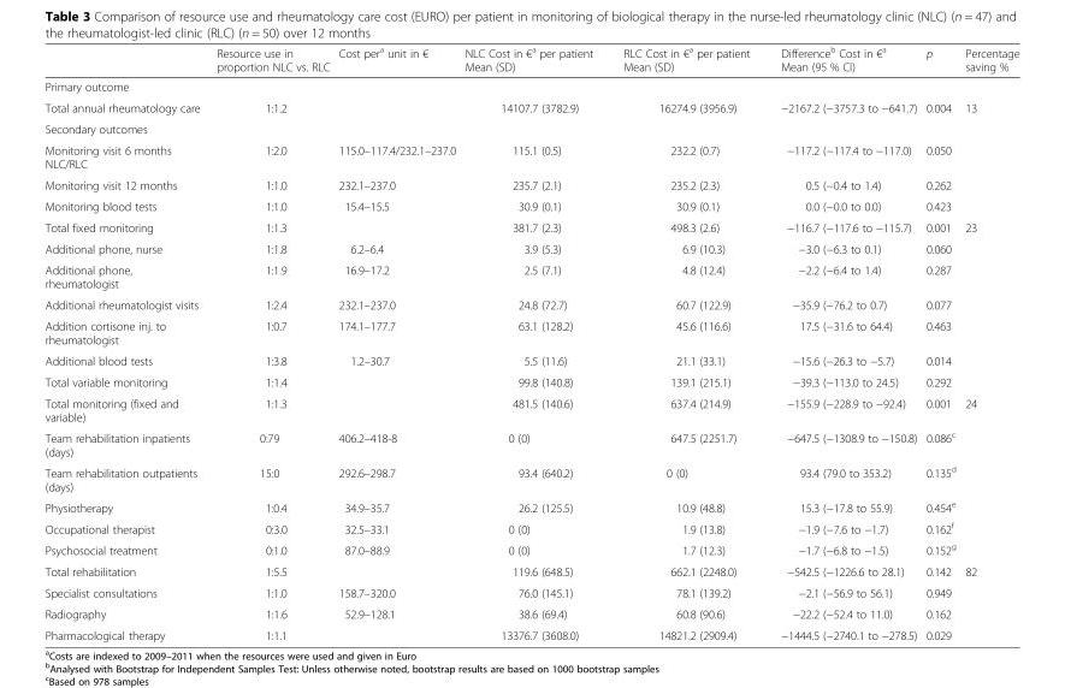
<table><thead><tr><td></td><td>Resource use in proportion NLC vs. RLC</td><td>Cost per<sup>a</sup> unit in €</td><td>NLC Cost in €<sup>a</sup> per patient Mean (SD)</td><td>RLC Cost in €<sup>a</sup> per patient Mean (SD)</td><td>Difference<sup>b</sup> Cost in €<sup>a</sup> Mean (95 % CI)</td><td>p</td><td>Percentage saving %</td></tr></thead><tbody><tr><td colspan="8">Primary outcome</td></tr><tr><td>Total annual rheumatology care</td><td>1:1.2</td><td></td><td>14107.7 (3782.9)</td><td>16274.9 (3956.9)</td><td>−2167.2 (−3757.3 to −641.7)</td><td>0.004</td><td>13</td></tr><tr><td colspan="8">Secondary outcomes</td></tr><tr><td>Monitoring visit 6 months NLC/RLC</td><td>1:2.0</td><td>115.0–117.4/232.1–237.0</td><td>115.1 (0.5)</td><td>232.2 (0.7)</td><td>−117.2 (−117.4 to −117.0)</td><td>0.050</td><td></td></tr><tr><td>Monitoring visit 12 months</td><td>1:1.0</td><td>232.1–237.0</td><td>235.7 (2.1)</td><td>235.2 (2.3)</td><td>0.5 (−0.4 to 1.4)</td><td>0.262</td><td></td></tr><tr><td>Monitoring blood tests</td><td>1:1.0</td><td>15.4–15.5</td><td>30.9 (0.1)</td><td>30.9 (0.1)</td><td>0.0 (−0.0 to 0.0)</td><td>0.423</td><td></td></tr><tr><td>Total fixed monitoring</td><td>1:1.3</td><td></td><td>381.7 (2.3)</td><td>498.3 (2.6)</td><td>−116.7 (−117.6 to −115.7)</td><td>0.001</td><td>23</td></tr><tr><td>Additional phone, nurse</td><td>1:1.8</td><td>6.2–6.4</td><td>3.9 (5.3)</td><td>6.9 (10.3)</td><td>−3.0 (−6.3 to 0.1)</td><td>0.060</td><td></td></tr><tr><td>Additional phone, rheumatologist</td><td>1:1.9</td><td>16.9–17.2</td><td>2.5 (7.1)</td><td>4.8 (12.4)</td><td>−2.2 (−6.4 to 1.4)</td><td>0.287</td><td></td></tr><tr><td>Additional rheumatologist visits</td><td>1:2.4</td><td>232.1–237.0</td><td>24.8 (72.7)</td><td>60.7 (122.9)</td><td>−35.9 (−76.2 to 0.7)</td><td>0.077</td><td></td></tr><tr><td>Addition cortisone inj. to rheumatologist</td><td>1:0.7</td><td>174.1–177.7</td><td>63.1 (128.2)</td><td>45.6 (116.6)</td><td>17.5 (−31.6 to 64.4)</td><td>0.463</td><td></td></tr><tr><td>Additional blood tests</td><td>1:3.8</td><td>1.2–30.7</td><td>5.5 (11.6)</td><td>21.1 (33.1)</td><td>−15.6 (−26.3 to −5.7)</td><td>0.014</td><td></td></tr><tr><td>Total variable monitoring</td><td>1:1.4</td><td></td><td>99.8 (140.8)</td><td>139.1 (215.1)</td><td>−39.3 (−113.0 to 24.5)</td><td>0.292</td><td></td></tr><tr><td>Total monitoring (fixed and variable)</td><td>1:1.3</td><td></td><td>481.5 (140.6)</td><td>637.4 (214.9)</td><td>−155.9 (−228.9 to −92.4)</td><td>0.001</td><td>24</td></tr><tr><td>Team rehabilitation inpatients (days)</td><td>0:79</td><td>406.2–418-8</td><td>0 (0)</td><td>647.5 (2251.7)</td><td>−647.5 (−1308.9 to −150.8)</td><td>0.086<sup>c</sup></td><td></td></tr><tr><td>Team rehabilitation outpatients (days)</td><td>15:0</td><td>292.6–298.7</td><td>93.4 (640.2)</td><td>0 (0)</td><td>93.4 (79.0 to 353.2)</td><td>0.135<sup>d</sup></td><td></td></tr><tr><td>Physiotherapy</td><td>1:0.4</td><td>34.9–35.7</td><td>26.2 (125.5)</td><td>10.9 (48.8)</td><td>15.3 (−17.8 to 55.9)</td><td>0.454<sup>e</sup></td><td></td></tr><tr><td>Occupational therapist</td><td>0:3.0</td><td>32.5–33.1</td><td>0 (0)</td><td>1.9 (13.8)</td><td>−1.9 (−7.6 to −1.7)</td><td>0.162<sup>f</sup></td><td></td></tr><tr><td>Psychosocial treatment</td><td>0:1.0</td><td>87.0–88.9</td><td>0 (0)</td><td>1.7 (12.3)</td><td>−1.7 (−6.8 to −1.5)</td><td>0.152<sup>g</sup></td><td></td></tr><tr><td>Total rehabilitation</td><td>1:5.5</td><td></td><td>119.6 (648.5)</td><td>662.1 (2248.0)</td><td>−542.5 (−1226.6 to 28.1)</td><td>0.142</td><td>82</td></tr><tr><td>Specialist consultations</td><td>1:1.0</td><td>158.7–320.0</td><td>76.0 (145.1)</td><td>78.1 (139.2)</td><td>−2.1 (−56.9 to 56.1)</td><td>0.949</td><td></td></tr><tr><td>Radiography</td><td>1:1.6</td><td>52.9–128.1</td><td>38.6 (69.4)</td><td>60.8 (90.6)</td><td>−22.2 (−52.4 to 11.0)</td><td>0.162</td><td></td></tr><tr><td>Pharmacological therapy</td><td>1:1.1</td><td></td><td>13376.7 (3608.0)</td><td>14821.2 (2909.4)</td><td>−1444.5 (−2740.1 to −278.5)</td><td>0.029</td><td></td></tr></tbody></table>